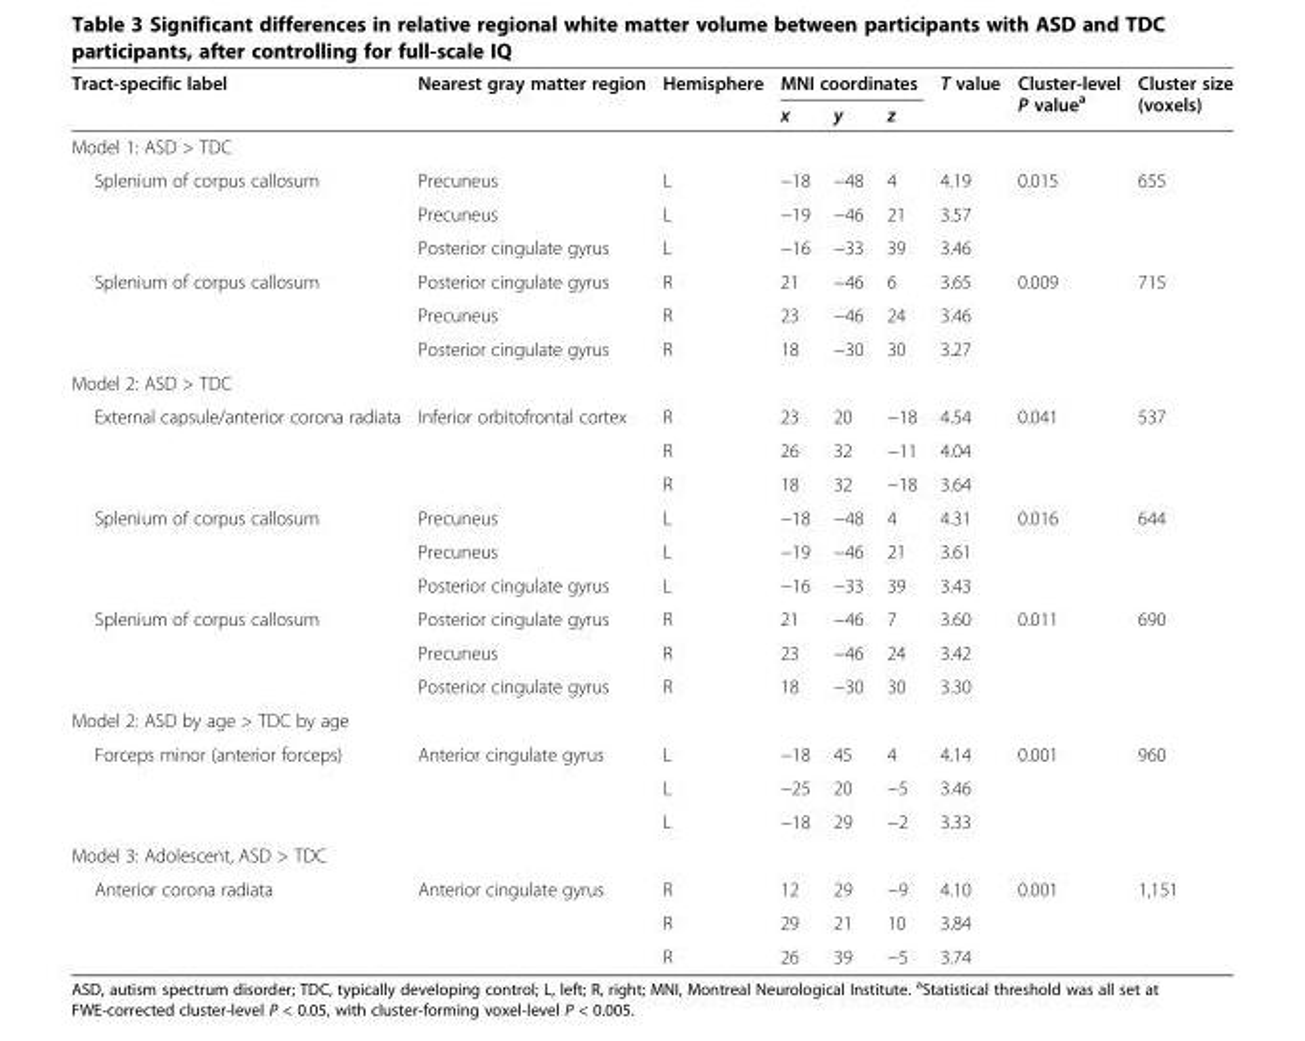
<table><thead><tr><td rowspan="2">Tract-specific label</td><td rowspan="2">Nearest gray matter region</td><td rowspan="2">Hemisphere</td><td colspan="3">MNI coordinates</td><td rowspan="2">T value</td><td rowspan="2">Cluster-level P value<sup>a</sup></td><td rowspan="2">Cluster size (voxels)</td></tr><tr><td>x</td><td>y</td><td>z</td></tr></thead><tbody><tr><td colspan="9">Model 1: ASD &gt; TDC</td></tr><tr><td rowspan="3">Splenium of corpus callosum</td><td>Precuneus</td><td>L</td><td>−18</td><td>−48</td><td>4</td><td>4.19</td><td>0.015</td><td>655</td></tr><tr><td>Precuneus</td><td>L</td><td>−19</td><td>−46</td><td>21</td><td>3.57</td><td></td><td></td></tr><tr><td>Posterior cingulate gyrus</td><td>L</td><td>−16</td><td>−33</td><td>39</td><td>3.46</td><td></td><td></td></tr><tr><td rowspan="3">Splenium of corpus callosum</td><td>Posterior cingulate gyrus</td><td>R</td><td>21</td><td>−46</td><td>6</td><td>3.65</td><td>0.009</td><td>715</td></tr><tr><td>Precuneus</td><td>R</td><td>23</td><td>−46</td><td>24</td><td>3.46</td><td></td><td></td></tr><tr><td>Posterior cingulate gyrus</td><td>R</td><td>18</td><td>−30</td><td>30</td><td>3.27</td><td></td><td></td></tr><tr><td colspan="9">Model 2: ASD &gt; TDC</td></tr><tr><td rowspan="3">External capsule/anterior corona radiata</td><td>Inferior orbitofrontal cortex</td><td>R</td><td>23</td><td>20</td><td>−18</td><td>4.54</td><td>0.041</td><td>537</td></tr><tr><td></td><td>R</td><td>26</td><td>32</td><td>−11</td><td>4.04</td><td></td><td></td></tr><tr><td></td><td>R</td><td>18</td><td>32</td><td>−18</td><td>3.64</td><td></td><td></td></tr><tr><td rowspan="3">Splenium of corpus callosum</td><td>Precuneus</td><td>L</td><td>−18</td><td>−48</td><td>4</td><td>4.31</td><td>0.016</td><td>644</td></tr><tr><td>Precuneus</td><td>L</td><td>−19</td><td>−46</td><td>21</td><td>3.61</td><td></td><td></td></tr><tr><td>Posterior cingulate gyrus</td><td>L</td><td>−16</td><td>−33</td><td>39</td><td>3.43</td><td></td><td></td></tr><tr><td rowspan="3">Splenium of corpus callosum</td><td>Posterior cingulate gyrus</td><td>R</td><td>21</td><td>−46</td><td>7</td><td>3.60</td><td>0.011</td><td>690</td></tr><tr><td>Precuneus</td><td>R</td><td>23</td><td>−46</td><td>24</td><td>3.42</td><td></td><td></td></tr><tr><td>Posterior cingulate gyrus</td><td>R</td><td>18</td><td>−30</td><td>30</td><td>3.30</td><td></td><td></td></tr><tr><td colspan="9">Model 2: ASD by age &gt; TDC by age</td></tr><tr><td rowspan="3">Forceps minor (anterior forceps)</td><td>Anterior cingulate gyrus</td><td>L</td><td>−18</td><td>45</td><td>4</td><td>4.14</td><td>0.001</td><td>960</td></tr><tr><td></td><td>L</td><td>−25</td><td>20</td><td>−5</td><td>3.46</td><td></td><td></td></tr><tr><td></td><td>L</td><td>−18</td><td>29</td><td>−2</td><td>3.33</td><td></td><td></td></tr><tr><td colspan="9">Model 3: Adolescent, ASD &gt; TDC</td></tr><tr><td rowspan="3">Anterior corona radiata</td><td>Anterior cingulate gyrus</td><td>R</td><td>12</td><td>29</td><td>−9</td><td>4.10</td><td>0.001</td><td>1,151</td></tr><tr><td></td><td>R</td><td>29</td><td>21</td><td>10</td><td>3.84</td><td></td><td></td></tr><tr><td></td><td>R</td><td>26</td><td>39</td><td>−5</td><td>3.74</td><td></td><td></td></tr></tbody></table>